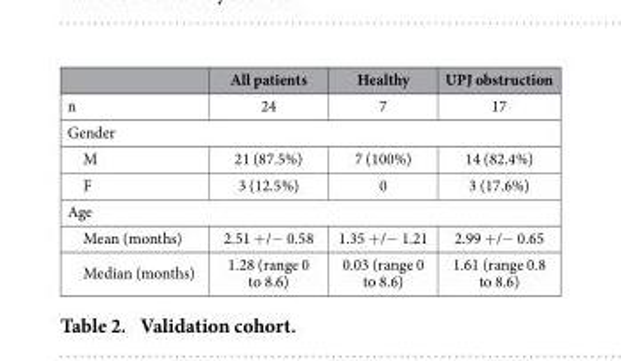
<table><thead><tr><td></td><td>All patients</td><td>Healthy</td><td>UPJ obstruction</td></tr></thead><tbody><tr><td>n</td><td>24</td><td>7</td><td>17</td></tr><tr><td colspan="4">Gender</td></tr><tr><td>M</td><td>21 (87.5%)</td><td>7 (100%)</td><td>14 (82.4%)</td></tr><tr><td>F</td><td>3 (12.5%)</td><td>0</td><td>3 (17.6%)</td></tr><tr><td colspan="4">Age</td></tr><tr><td>Mean (months)</td><td>2.51 + /− 0.58</td><td>1.35 + /− 1.21</td><td>2.99 + /− 0.65</td></tr><tr><td>Median (months)</td><td>1.28 (range 0 to 8.6)</td><td>0.03 (range 0 to 8.6)</td><td>1.61 (range 0.8 to 8.6)</td></tr></tbody></table>